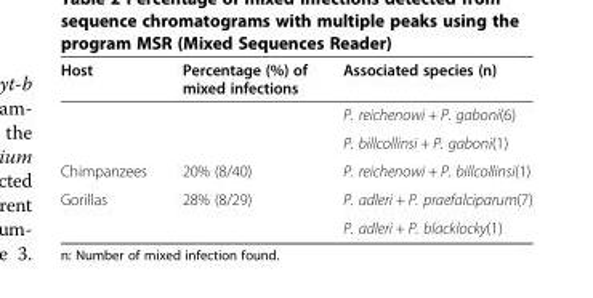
<table><thead><tr><td>Host</td><td>Percentage (%) of mixed infections</td><td>Associated species (n)</td></tr></thead><tbody><tr><td rowspan="2"></td><td rowspan="2"></td><td>P. reichenowi + P. gaboni(6)</td></tr><tr><td>P. billcollinsi + P. gaboni(1)</td></tr><tr><td>Chimpanzees</td><td>20% (8/40)</td><td>P. reichenowi + P. billcollinsi(1)</td></tr><tr><td rowspan="2">Gorillas</td><td rowspan="2">28% (8/29)</td><td>P. adleri + P. praefalciparum(7)</td></tr><tr><td>P. adleri + P. blacklocky(1)</td></tr></tbody></table>